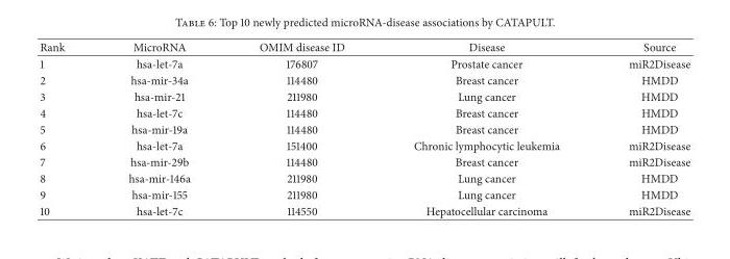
<table><thead><tr><td>Rank</td><td>MicroRNA</td><td>OMIM disease ID</td><td>Disease</td><td>Source</td></tr></thead><tbody><tr><td>1</td><td>hsa-let-7a</td><td>176807</td><td>Prostate cancer</td><td>miR2Disease</td></tr><tr><td>2</td><td>hsa-mir-34a</td><td>114480</td><td>Breast cancer</td><td>HMDD</td></tr><tr><td>3</td><td>hsa-mir-21</td><td>211980</td><td>Lung cancer</td><td>HMDD</td></tr><tr><td>4</td><td>hsa-let-7c</td><td>114480</td><td>Breast cancer</td><td>HMDD</td></tr><tr><td>5</td><td>hsa-mir-19a</td><td>114480</td><td>Breast cancer</td><td>HMDD</td></tr><tr><td>6</td><td>hsa-let-7a</td><td>151400</td><td>Chronic lymphocytic leukemia</td><td>miR2Disease</td></tr><tr><td>7</td><td>hsa-mir-29b</td><td>114480</td><td>Breast cancer</td><td>miR2Disease</td></tr><tr><td>8</td><td>hsa-mir-146a</td><td>211980</td><td>Lung cancer</td><td>HMDD</td></tr><tr><td>9</td><td>hsa-mir-155</td><td>211980</td><td>Lung cancer</td><td>HMDD</td></tr><tr><td>10</td><td>hsa-let-7c</td><td>114550</td><td>Hepatocellular carcinoma</td><td>miR2Disease</td></tr></tbody></table>